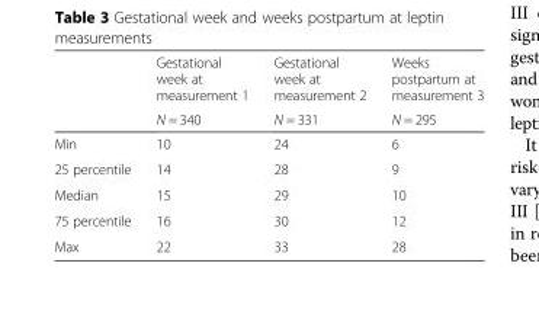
<table><thead><tr><td rowspan="2"></td><td rowspan="2">Gestational week at measurement 1 N = 340</td><td rowspan="2">Gestational week at measurement 2 N = 331</td><td rowspan="2">Weeks postpartum at measurement 3 N = 295</td></tr><tr></tr></thead><tbody><tr><td>Min</td><td>10</td><td>24</td><td>6</td></tr><tr><td>25 percentile</td><td>14</td><td>28</td><td>9</td></tr><tr><td>Median</td><td>15</td><td>29</td><td>10</td></tr><tr><td>75 percentile</td><td>16</td><td>30</td><td>12</td></tr><tr><td>Max</td><td>22</td><td>33</td><td>28</td></tr></tbody></table>